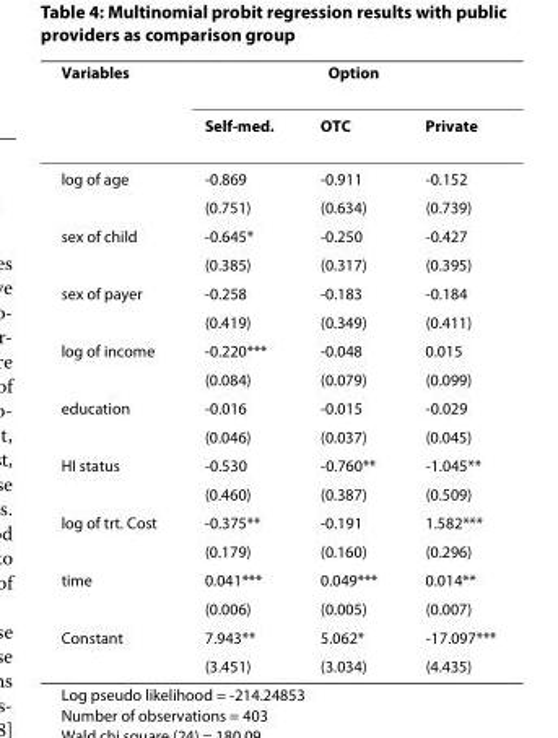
<table><thead><tr><td rowspan="2">Variables</td><td colspan="3">Option</td></tr><tr><td>Self-med.</td><td>OTC</td><td>Private</td></tr></thead><tbody><tr><td rowspan="2">log of age</td><td>-0.869</td><td>-0.911</td><td>-0.152</td></tr><tr><td>(0.751)</td><td>(0.634)</td><td>(0.739)</td></tr><tr><td rowspan="2">sex of child</td><td>-0.645*</td><td>-0.250</td><td>-0.427</td></tr><tr><td>(0.385)</td><td>(0.317)</td><td>(0.395)</td></tr><tr><td rowspan="2">sex of payer</td><td>-0.258</td><td>-0.183</td><td>-0.184</td></tr><tr><td>(0.419)</td><td>(0.349)</td><td>(0.411)</td></tr><tr><td rowspan="2">log of income</td><td>-0.220***</td><td>-0.048</td><td>0.015</td></tr><tr><td>(0.084)</td><td>(0.079)</td><td>(0.099)</td></tr><tr><td rowspan="2">education</td><td>-0.016</td><td>-0.015</td><td>-0.029</td></tr><tr><td>(0.046)</td><td>(0.037)</td><td>(0.045)</td></tr><tr><td rowspan="2">HI status</td><td>-0.530</td><td>-0.760**</td><td>-1.045**</td></tr><tr><td>(0.460)</td><td>(0.387)</td><td>(0.509)</td></tr><tr><td rowspan="2">log of trt. Cost</td><td>-0.375**</td><td>-0.191</td><td>1.582***</td></tr><tr><td>(0.179)</td><td>(0.160)</td><td>(0.296)</td></tr><tr><td rowspan="2">time</td><td>0.041***</td><td>0.049***</td><td>0.014**</td></tr><tr><td>(0.006)</td><td>(0.005)</td><td>(0.007)</td></tr><tr><td rowspan="2">Constant</td><td>7.943**</td><td>5.062*</td><td>-17.097***</td></tr><tr><td>(3.451)</td><td>(3.034)</td><td>(4.435)</td></tr></tbody></table>